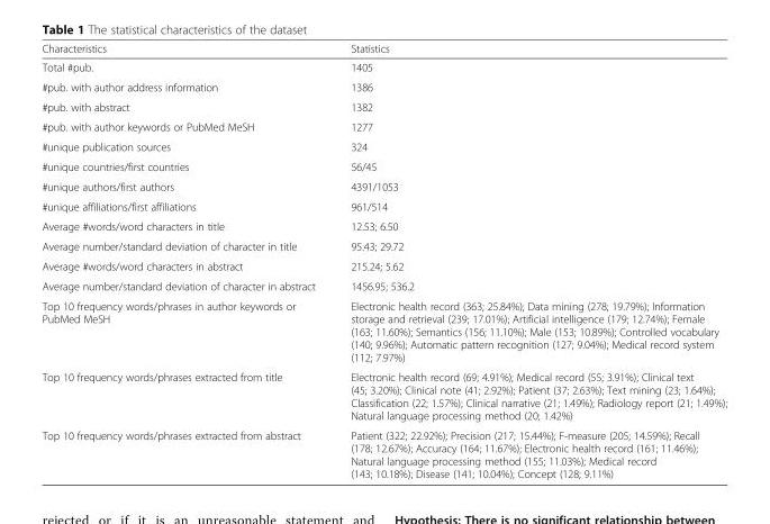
<table><thead><tr><td>Characteristics</td><td>Statistics</td></tr></thead><tbody><tr><td>Total #pub.</td><td>1405</td></tr><tr><td>#pub. with author address information</td><td>1386</td></tr><tr><td>#pub. with abstract</td><td>1382</td></tr><tr><td>#pub. with author keywords or PubMed MeSH</td><td>1277</td></tr><tr><td>#unique publication sources</td><td>324</td></tr><tr><td>#unique countries/first countries</td><td>56/45</td></tr><tr><td>#unique authors/first authors</td><td>4391/1053</td></tr><tr><td>#unique affiliations/first affiliations</td><td>961/514</td></tr><tr><td>Average #words/word characters in title</td><td>12.53; 6.50</td></tr><tr><td>Average number/standard deviation of character in title</td><td>95.43; 29.72</td></tr><tr><td>Average #words/word characters in abstract</td><td>215.24; 5.62</td></tr><tr><td>Average number/standard deviation of character in abstract</td><td>1456.95; 536.2</td></tr><tr><td>Top 10 frequency words/phrases in author keywords or PubMed MeSH</td><td>Electronic health record (363; 25.84%); Data mining (278; 19.79%); Information storage and retrieval (239; 17.01%); Artificial intelligence (179; 12.74%); Female (163; 11.60%); Semantics (156; 11.10%); Male (153; 10.89%); Controlled vocabulary (140; 9.96%); Automatic pattern recognition (127; 9.04%); Medical record system (112; 7.97%)</td></tr><tr><td>Top 10 frequency words/phrases extracted from title</td><td>Electronic health record (69; 4.91%); Medical record (55; 3.91%); Clinical text (45; 3.20%); Clinical note (41; 2.92%); Patient (37; 2.63%); Text mining (23; 1.64%); Classification (22; 1.57%); Clinical narrative (21; 1.49%); Radiology report (21; 1.49%); Natural language processing method (20; 1.42%)</td></tr><tr><td>Top 10 frequency words/phrases extracted from abstract</td><td>Patient (322; 22.92%); Precision (217; 15.44%); F-measure (205; 14.59%); Recall (178; 12.67%); Accuracy (164; 11.67%); Electronic health record (161; 11.46%); Natural language processing method (155; 11.03%); Medical record (143; 10.18%); Disease (141; 10.04%); Concept (128; 9.11%)</td></tr></tbody></table>